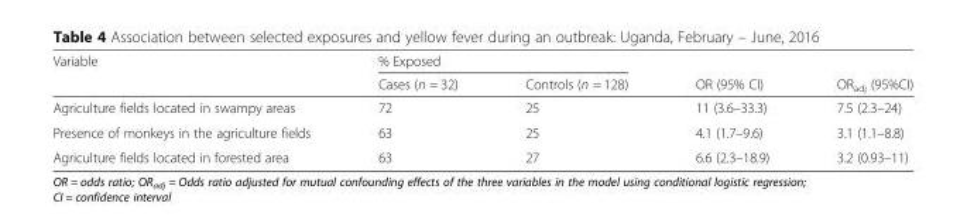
<table><thead><tr><td rowspan="2">Variable</td><td colspan="2">% Exposed</td><td rowspan="2">OR (95% CI)</td><td rowspan="2">OR<sub>adj</sub> (95%CI)</td></tr><tr><td>Cases (n = 32)</td><td>Controls (n = 128)</td></tr></thead><tbody><tr><td>Agriculture fields located in swampy areas</td><td>72</td><td>25</td><td>11 (3.6–33.3)</td><td>7.5 (2.3–24)</td></tr><tr><td>Presence of monkeys in the agriculture fields</td><td>63</td><td>25</td><td>4.1 (1.7–9.6)</td><td>3.1 (1.1–8.8)</td></tr><tr><td>Agriculture fields located in forested area</td><td>63</td><td>27</td><td>6.6 (2.3–18.9)</td><td>3.2 (0.93–11)</td></tr></tbody></table>